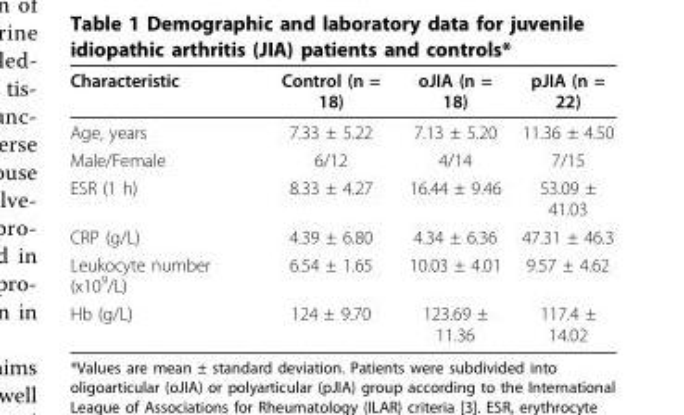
<table><thead><tr><td>Characteristic</td><td>Control (n = 18)</td><td>oJIA (n = 18)</td><td>pJIA (n = 22)</td></tr></thead><tbody><tr><td>Age, years</td><td>7.33 ± 5.22</td><td>7.13 ± 5.20</td><td>11.36 ± 4.50</td></tr><tr><td>Male/Female</td><td>6/12</td><td>4/14</td><td>7/15</td></tr><tr><td>ESR (1 h)</td><td>8.33 ± 4.27</td><td>16.44 ± 9.46</td><td>53.09 ± 41.03</td></tr><tr><td>CRP (g/L)</td><td>4.39 ± 6.80</td><td>4.34 ± 6.36</td><td>47.31 ± 46.3</td></tr><tr><td>Leukocyte number (x10<sup>9</sup>/L)</td><td>6.54 ± 1.65</td><td>10.03 ± 4.01</td><td>9.57 ± 4.62</td></tr><tr><td>Hb (g/L)</td><td>124 ± 9.70</td><td>123.69 ± 11.36</td><td>117.4 ± 14.02</td></tr></tbody></table>